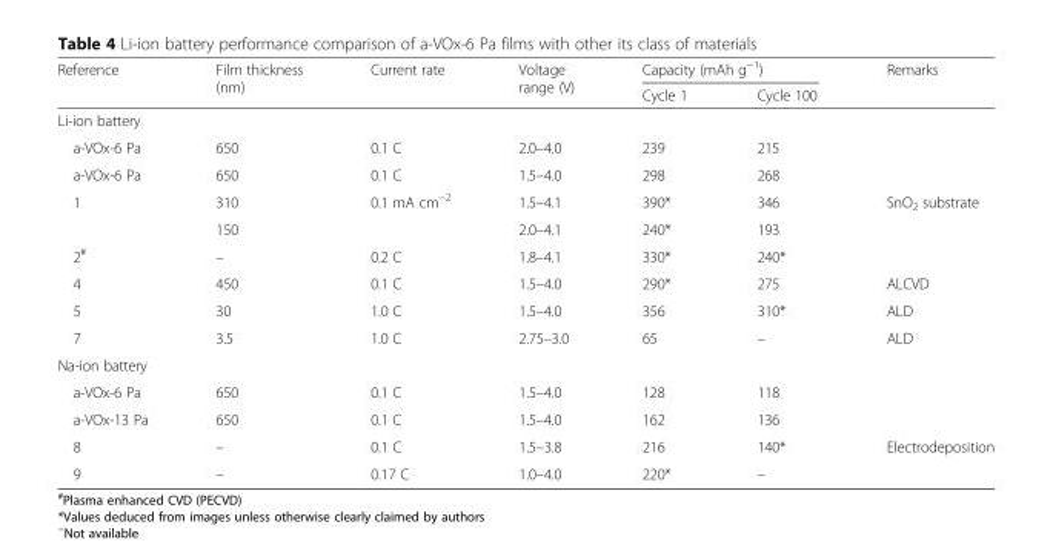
<table><thead><tr><td rowspan="2">Reference</td><td rowspan="2">Film thickness (nm)</td><td rowspan="2">Current rate</td><td rowspan="2">Voltage range (V)</td><td colspan="2">Capacity (mAh g<sup>−1</sup>)</td><td rowspan="2">Remarks</td></tr><tr><td>Cycle 1</td><td>Cycle 100</td></tr></thead><tbody><tr><td colspan="7">Li-ion battery</td></tr><tr><td>a-VOx-6 Pa</td><td>650</td><td>0.1 C</td><td>2.0–4.0</td><td>239</td><td>215</td><td></td></tr><tr><td>a-VOx-6 Pa</td><td>650</td><td>0.1 C</td><td>1.5–4.0</td><td>298</td><td>268</td><td></td></tr><tr><td rowspan="2">1</td><td>310</td><td rowspan="2">0.1 mA cm<sup>−2</sup></td><td>1.5–4.1</td><td>390*</td><td>346</td><td rowspan="3">SnO<sub>2</sub> substrate</td></tr><tr><td>150</td><td>2.0–4.1</td><td>240*</td><td>193</td></tr><tr><td>2<sup>#</sup></td><td>–</td><td>0.2 C</td><td>1.8–4.1</td><td>330*</td><td>240*</td></tr><tr><td>4</td><td>450</td><td>0.1 C</td><td>1.5–4.0</td><td>290*</td><td>275</td><td>ALCVD</td></tr><tr><td>5</td><td>30</td><td>1.0 C</td><td>1.5–4.0</td><td>356</td><td>310*</td><td>ALD</td></tr><tr><td>7</td><td>3.5</td><td>1.0 C</td><td>2.75–3.0</td><td>65</td><td>–</td><td>ALD</td></tr><tr><td colspan="7">Na-ion battery</td></tr><tr><td>a-VOx-6 Pa</td><td>650</td><td>0.1 C</td><td>1.5–4.0</td><td>128</td><td>118</td><td></td></tr><tr><td>a-VOx-13 Pa</td><td>650</td><td>0.1 C</td><td>1.5–4.0</td><td>162</td><td>136</td><td></td></tr><tr><td>8</td><td>–</td><td>0.1 C</td><td>1.5–3.8</td><td>216</td><td>140*</td><td rowspan="2">Electrodeposition</td></tr><tr><td>9</td><td>–</td><td>0.17 C</td><td>1.0–4.0</td><td>220*</td><td>–</td></tr></tbody></table>